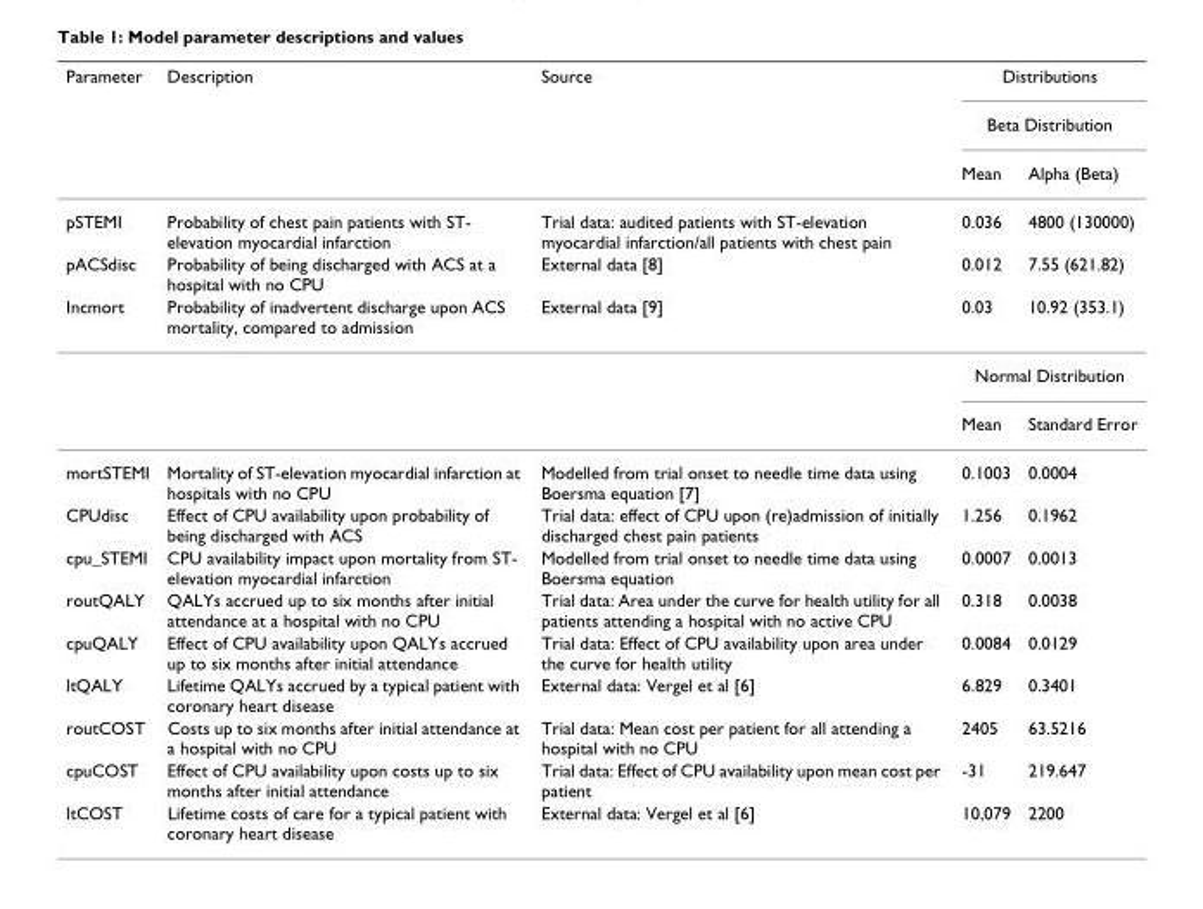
<table><thead><tr><td rowspan="3">Parameter</td><td rowspan="3">Description</td><td rowspan="3">Source</td><td rowspan="2" colspan="2">Distributions Beta Distribution</td></tr><tr></tr><tr><td>Mean</td><td>Alpha (Beta)</td></tr></thead><tbody><tr><td>pSTEMI</td><td>Probability of chest pain patients with ST- elevation myocardial infarction</td><td>Trial data: audited patients with ST-elevation myocardial infarction/all patients with chest pain</td><td>0.036</td><td>4800 (130000)</td></tr><tr><td>pACSdisc</td><td>Probability of being discharged with ACS at a hospital with no CPU</td><td>External data [8]</td><td>0.012</td><td>7.55 (621.82)</td></tr><tr><td rowspan="3">Incmort</td><td>Probability of inadvertent discharge upon ACS mortality, compared to admission</td><td>External data [9]</td><td>0.03</td><td>10.92 (353.1)</td></tr><tr><td></td><td></td><td colspan="2">Normal Distribution</td></tr><tr><td></td><td></td><td>Mean</td><td>Standard Error</td></tr><tr><td>mortSTEMI</td><td>Mortality of ST-elevation myocardial infarction at hospitals with no CPU</td><td>Modelled from trial onset to needle time data using Boersma equation [7]</td><td>0.1003</td><td>0.0004</td></tr><tr><td>CPUdisc</td><td>Effect of CPU availability upon probability of being discharged with ACS</td><td>Trial data: effect of CPU upon (re)admission of initially discharged chest pain patients</td><td>1.256</td><td>0.1962</td></tr><tr><td>cpu_STEMI</td><td>CPU availability impact upon mortality from ST- elevation myocardial infarction</td><td>Modelled from trial onset to needle time data using Boersma equation</td><td>0.0007</td><td>0.0013</td></tr><tr><td>routQALY</td><td>QALYs accrued up to six months after initial attendance at a hospital with no CPU</td><td>Trial data: Area under the curve for health utility for all patients attending a hospital with no active CPU</td><td>0.318</td><td>0.0038</td></tr><tr><td>cpuQALY</td><td>Effect of CPU availability upon QALYs accrued up to six months after initial attendance</td><td>Trial data: Effect of CPU availability upon area under the curve for health utility</td><td>0.0084</td><td>0.0129</td></tr><tr><td>ltQALY</td><td>Lifetime QALYs accrued by a typical patient with coronary heart disease</td><td>External data: Vergel et al [6]</td><td>6.829</td><td>0.3401</td></tr><tr><td>routCOST</td><td>Costs up to six months after initial attendance at a hospital with no CPU</td><td>Trial data: Mean cost per patient for all attending a hospital with no CPU</td><td>2405</td><td>63.5216</td></tr><tr><td>cpuCOST</td><td>Effect of CPU availability upon costs up to six months after initial attendance</td><td>Trial data: Effect of CPU availability upon mean cost per patient</td><td>-31</td><td>219.647</td></tr><tr><td>ltCOST</td><td>Lifetime costs of care for a typical patient with coronary heart disease</td><td>External data: Vergel et al [6]</td><td>10,079</td><td>2200</td></tr></tbody></table>